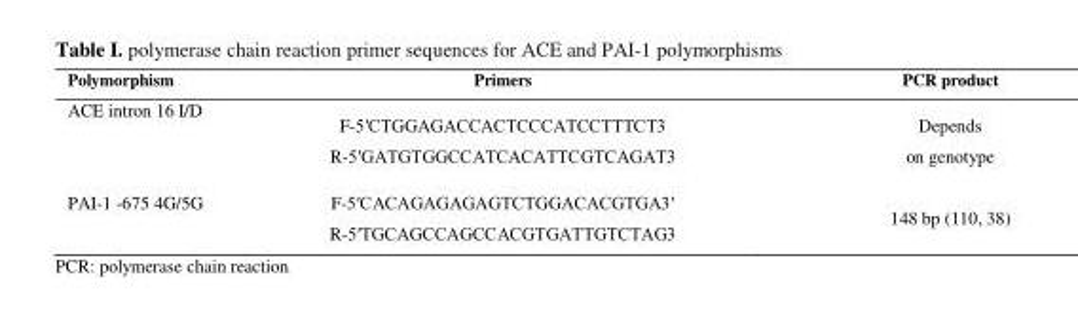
<table><thead><tr><td>Polymorphism</td><td>Primers</td><td>PCR product</td></tr></thead><tbody><tr><td>ACE intron 16 I/D</td><td>F-5′CTGGAGACCACTCCCATCCTTTCT3 R-5′GATGTGGCCATCACATTCGTCAGAT3</td><td>Depends on genotype</td></tr><tr><td>PAI-1 -675 4G/5G</td><td>F-5′CACAGAGAGAGTCTGGACACGTGA3′ R-5′TGCAGCCAGCCACGTGATTGTCTAG3</td><td>148 bp (110, 38)</td></tr></tbody></table>